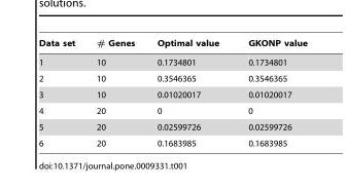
<table><thead><tr><td>Data set</td><td># Genes</td><td>Optimal value</td><td>GKONP value</td></tr></thead><tbody><tr><td>1</td><td>10</td><td>0.1734801</td><td>0.1734801</td></tr><tr><td>2</td><td>10</td><td>0.3546365</td><td>0.3546365</td></tr><tr><td>3</td><td>10</td><td>0.01020017</td><td>0.01020017</td></tr><tr><td>4</td><td>20</td><td>0</td><td>0</td></tr><tr><td>5</td><td>20</td><td>0.02599726</td><td>0.02599726</td></tr><tr><td>6</td><td>20</td><td>0.1683985</td><td>0.1683985</td></tr></tbody></table>